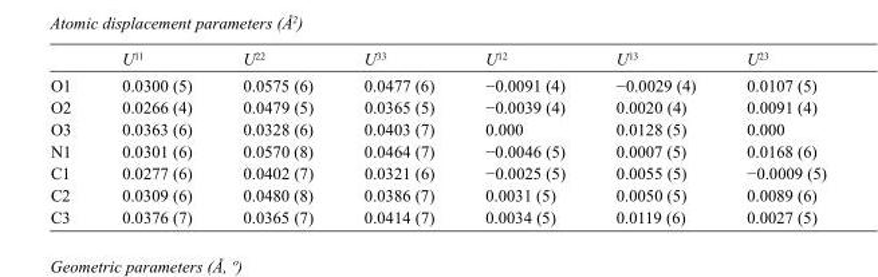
<table><thead><tr><td></td><td>U<sup>11</sup></td><td>U<sup>22</sup></td><td>U<sup>33</sup></td><td>U<sup>12</sup></td><td>U<sup>13</sup></td><td>U<sup>23</sup></td></tr></thead><tbody><tr><td>O1</td><td>0.0300 (5)</td><td>0.0575 (6)</td><td>0.0477 (6)</td><td>−0.0091 (4)</td><td>−0.0029 (4)</td><td>0.0107 (5)</td></tr><tr><td>O2</td><td>0.0266 (4)</td><td>0.0479 (5)</td><td>0.0365 (5)</td><td>−0.0039 (4)</td><td>0.0020 (4)</td><td>0.0091 (4)</td></tr><tr><td>O3</td><td>0.0363 (6)</td><td>0.0328 (6)</td><td>0.0403 (7)</td><td>0.000</td><td>0.0128 (5)</td><td>0.000</td></tr><tr><td>N1</td><td>0.0301 (6)</td><td>0.0570 (8)</td><td>0.0464 (7)</td><td>−0.0046 (5)</td><td>0.0007 (5)</td><td>0.0168 (6)</td></tr><tr><td>C1</td><td>0.0277 (6)</td><td>0.0402 (7)</td><td>0.0321 (6)</td><td>−0.0025 (5)</td><td>0.0055 (5)</td><td>−0.0009 (5)</td></tr><tr><td>C2</td><td>0.0309 (6)</td><td>0.0480 (8)</td><td>0.0386 (7)</td><td>0.0031 (5)</td><td>0.0050 (5)</td><td>0.0089 (6)</td></tr><tr><td>C3</td><td>0.0376 (7)</td><td>0.0365 (7)</td><td>0.0414 (7)</td><td>0.0034 (5)</td><td>0.0119 (6)</td><td>0.0027 (5)</td></tr></tbody></table>